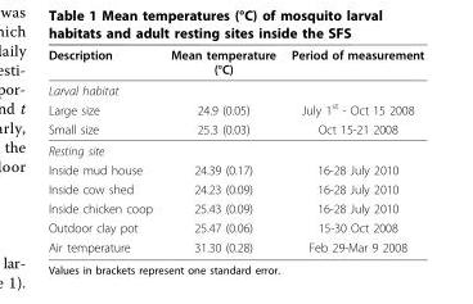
<table><thead><tr><td>Description</td><td>Mean temperature (°C)</td><td>Period of measurement</td></tr></thead><tbody><tr><td colspan="3">Larval habitat</td></tr><tr><td>Large size</td><td>24.9 (0.05)</td><td>July 1<sup>st</sup> - Oct 15 2008</td></tr><tr><td>Small size</td><td>25.3 (0.03)</td><td>Oct 15-21 2008</td></tr><tr><td colspan="3">Resting site</td></tr><tr><td>Inside mud house</td><td>24.39 (0.17)</td><td>16-28 July 2010</td></tr><tr><td>Inside cow shed</td><td>24.23 (0.09)</td><td>16-28 July 2010</td></tr><tr><td>Inside chicken coop</td><td>25.43 (0.09)</td><td>16-28 July 2010</td></tr><tr><td>Outdoor clay pot</td><td>25.47 (0.06)</td><td>15-30 Oct 2008</td></tr><tr><td>Air temperature</td><td>31.30 (0.28)</td><td>Feb 29-Mar 9 2008</td></tr></tbody></table>